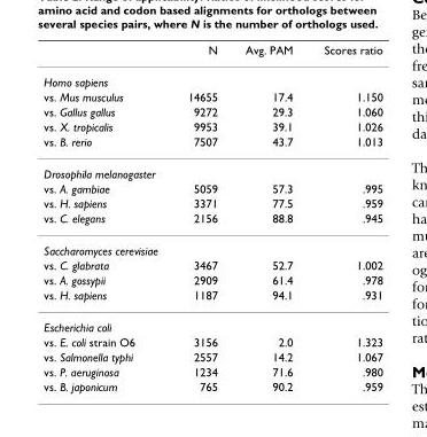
<table><thead><tr><td></td><td>N</td><td>Avg. PAM</td><td>Scores ratio</td></tr></thead><tbody><tr><td colspan="4">Homo sapiens</td></tr><tr><td>vs. Mus musculus</td><td>14655</td><td>17.4</td><td>1.150</td></tr><tr><td>vs. Gallus gallus</td><td>9272</td><td>29.3</td><td>1.060</td></tr><tr><td>vs. X. tropicalis</td><td>9953</td><td>39.1</td><td>1.026</td></tr><tr><td>vs. B. rerio</td><td>7507</td><td>43.7</td><td>1.013</td></tr><tr><td colspan="4">Drosophila melanogaster</td></tr><tr><td>vs. A. gambiae</td><td>5059</td><td>57.3</td><td>.995</td></tr><tr><td>vs. H. sapiens</td><td>3371</td><td>77.5</td><td>.959</td></tr><tr><td>vs. C. elegans</td><td>2156</td><td>88.8</td><td>.945</td></tr><tr><td colspan="4">Saccharomyces cerevisiae</td></tr><tr><td>vs. C. glabrata</td><td>3467</td><td>52.7</td><td>1.002</td></tr><tr><td>vs. A. gossypii</td><td>2909</td><td>61.4</td><td>.978</td></tr><tr><td>vs. H. sapiens</td><td>1187</td><td>94.1</td><td>.931</td></tr><tr><td colspan="4">Escherichia coli</td></tr><tr><td>vs. E. coli strain O6</td><td>3156</td><td>2.0</td><td>1.323</td></tr><tr><td>vs. Salmonella typhi</td><td>2557</td><td>14.2</td><td>1.067</td></tr><tr><td>vs. P. aeruginosa</td><td>1234</td><td>71.6</td><td>.980</td></tr><tr><td>vs. B. japonicum</td><td>765</td><td>90.2</td><td>.959</td></tr></tbody></table>